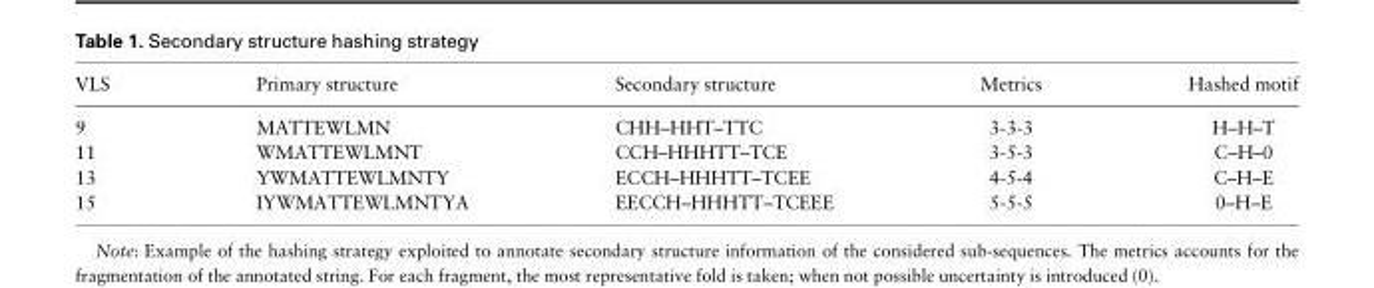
<table><thead><tr><td>VLS</td><td>Primary structure</td><td>Secondary structure</td><td>Metrics</td><td>Hashed motif</td></tr></thead><tbody><tr><td>9</td><td>MATTEWLMN</td><td>CHH–HHT–TTC</td><td>3-3-3</td><td>H–H–T</td></tr><tr><td>11</td><td>WMATTEWLMNT</td><td>CCH–HHHTT–TCE</td><td>3-5-3</td><td>C–H–0</td></tr><tr><td>13</td><td>YWMATTEWLMNTY</td><td>ECCH–HHHTT–TCEE</td><td>4-5-4</td><td>C–H–E</td></tr><tr><td>15</td><td>IYWMATTEWLMNTYA</td><td>EECCH–HHHTT–TCEEE</td><td>5-5-5</td><td>0–H–E</td></tr></tbody></table>